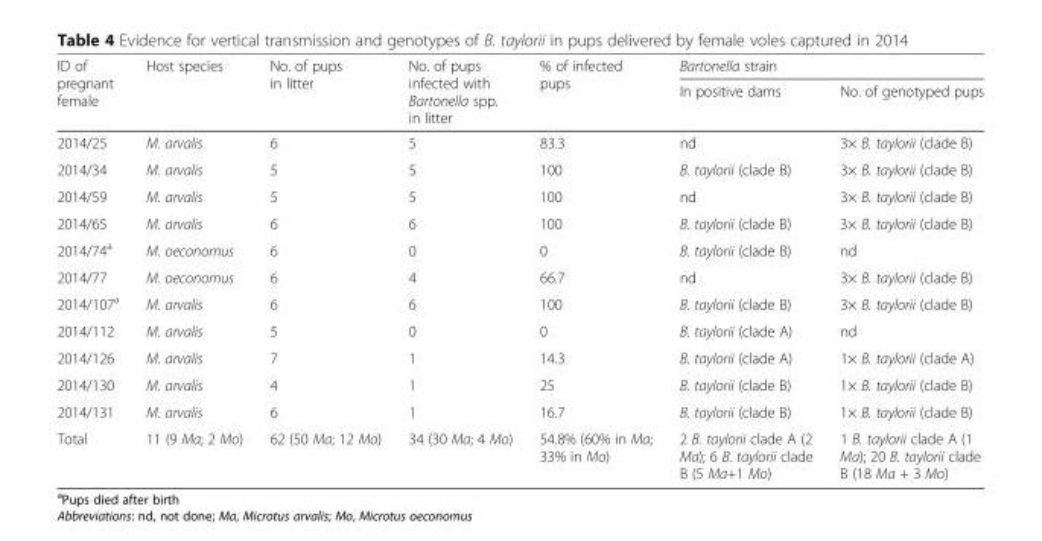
<table><thead><tr><td rowspan="2">ID of pregnant female</td><td rowspan="2">Host species</td><td rowspan="2">No. of pups in litter</td><td rowspan="2">No. of pups infected with Bartonella spp. in litter</td><td rowspan="2">% of infected pups</td><td colspan="2">Bartonella strain</td></tr><tr><td>In positive dams</td><td>No. of genotyped pups</td></tr></thead><tbody><tr><td>2014/25</td><td>M. arvalis</td><td>6</td><td>5</td><td>83.3</td><td>nd</td><td>3× B. taylorii (clade B)</td></tr><tr><td>2014/34</td><td>M. arvalis</td><td>5</td><td>5</td><td>100</td><td>B. taylorii (clade B)</td><td>3× B. taylorii (clade B)</td></tr><tr><td>2014/59</td><td>M. arvalis</td><td>5</td><td>5</td><td>100</td><td>nd</td><td>3× B. taylorii (clade B)</td></tr><tr><td>2014/65</td><td>M. arvalis</td><td>6</td><td>6</td><td>100</td><td>B. taylorii (clade B)</td><td>3× B. taylorii (clade B)</td></tr><tr><td>2014/74<sup>a</sup></td><td>M. oeconomus</td><td>6</td><td>0</td><td>0</td><td>B. taylorii (clade B)</td><td>nd</td></tr><tr><td>2014/77</td><td>M. oeconomus</td><td>6</td><td>4</td><td>66.7</td><td>nd</td><td>3× B. taylorii (clade B)</td></tr><tr><td>2014/107<sup>a</sup></td><td>M. arvalis</td><td>6</td><td>6</td><td>100</td><td>B. taylorii (clade B)</td><td>3× B. taylorii (clade B)</td></tr><tr><td>2014/112</td><td>M. arvalis</td><td>5</td><td>0</td><td>0</td><td>B. taylorii (clade A)</td><td>nd</td></tr><tr><td>2014/126</td><td>M. arvalis</td><td>7</td><td>1</td><td>14.3</td><td>B. taylorii (clade A)</td><td>1× B. taylorii (clade A)</td></tr><tr><td>2014/130</td><td>M. arvalis</td><td>4</td><td>1</td><td>25</td><td>B. taylorii (clade B)</td><td>1× B. taylorii (clade B)</td></tr><tr><td>2014/131</td><td>M. arvalis</td><td>6</td><td>1</td><td>16.7</td><td>B. taylorii (clade B)</td><td>1× B. taylorii (clade B)</td></tr><tr><td>Total</td><td>11 (9 Ma; 2 Mo)</td><td>62 (50 Ma; 12 Mo)</td><td>34 (30 Ma; 4 Mo)</td><td>54.8% (60% in Ma; 33% in Mo)</td><td>2 B. taylorii clade A (2 Ma); 6 B. taylorii clade B (5 Ma+1 Mo)</td><td>1 B. taylorii clade A (1 Ma); 20 B. taylorii clade B (18 Ma + 3 Mo)</td></tr></tbody></table>